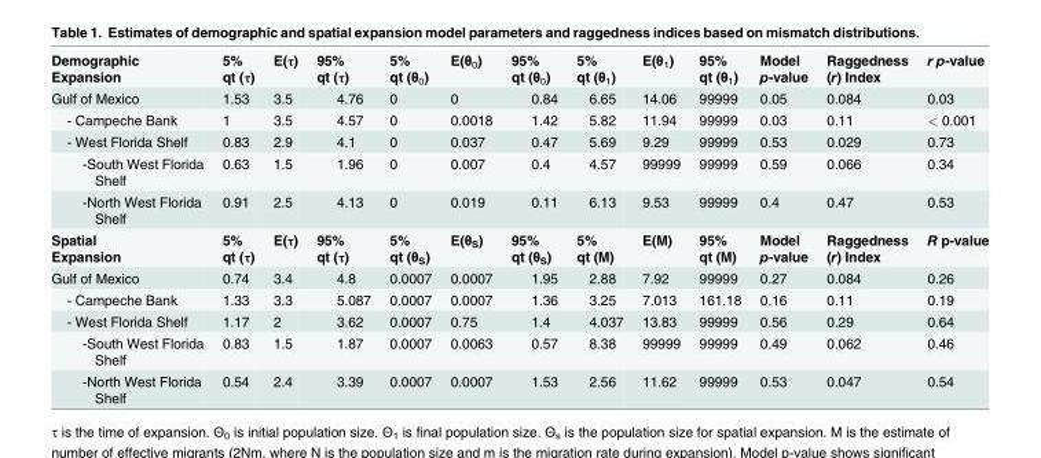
<table><tbody><tr><td>Demographic Expansion</td><td>5% qt (τ)</td><td>E(τ)</td><td>95% qt (τ)</td><td>5% qt (θ<sub>0</sub>)</td><td>E(θ<sub>0</sub>)</td><td>95% qt (θ<sub>0</sub>)</td><td>5% qt (θ<sub>1</sub>)</td><td>E(θ<sub>1</sub>)</td><td>95% qt (θ<sub>1</sub>)</td><td>Model p-value</td><td>Raggedness (r) Index</td><td>r p-value</td></tr><tr><td>Gulf of Mexico</td><td>1.53</td><td>3.5</td><td>4.76</td><td>0</td><td>0</td><td>0.84</td><td>6.65</td><td>14.06</td><td>99999</td><td>0.05</td><td>0.084</td><td>0.03</td></tr><tr><td>- Campeche Bank</td><td>1</td><td>3.5</td><td>4.57</td><td>0</td><td>0.0018</td><td>1.42</td><td>5.82</td><td>11.94</td><td>99999</td><td>0.03</td><td>0.11</td><td>&lt; 0.001</td></tr><tr><td>- West Florida Shelf</td><td>0.83</td><td>2.9</td><td>4.1</td><td>0</td><td>0.037</td><td>0.47</td><td>5.69</td><td>9.29</td><td>99999</td><td>0.53</td><td>0.029</td><td>0.73</td></tr><tr><td>-South West Florida Shelf</td><td>0.63</td><td>1.5</td><td>1.96</td><td>0</td><td>0.007</td><td>0.4</td><td>4.57</td><td>99999</td><td>99999</td><td>0.59</td><td>0.066</td><td>0.34</td></tr><tr><td>-North West Florida Shelf</td><td>0.91</td><td>2.5</td><td>4.13</td><td>0</td><td>0.019</td><td>0.11</td><td>6.13</td><td>9.53</td><td>99999</td><td>0.4</td><td>0.47</td><td>0.53</td></tr><tr><td>Spatial Expansion</td><td>5% qt (τ)</td><td>E(τ)</td><td>95% qt (τ)</td><td>5% qt (θ<sub>S</sub>)</td><td>E(θ<sub>S</sub>)</td><td>95% qt (θ<sub>S</sub>)</td><td>5% qt (M)</td><td>E(M)</td><td>95% qt (M)</td><td>Model p-value</td><td>Raggedness (r) Index</td><td>R p-value</td></tr><tr><td>Gulf of Mexico</td><td>0.74</td><td>3.4</td><td>4.8</td><td>0.0007</td><td>0.0007</td><td>1.95</td><td>2.88</td><td>7.92</td><td>99999</td><td>0.27</td><td>0.084</td><td>0.26</td></tr><tr><td>- Campeche Bank</td><td>1.33</td><td>3.3</td><td>5.087</td><td>0.0007</td><td>0.0007</td><td>1.36</td><td>3.25</td><td>7.013</td><td>161.18</td><td>0.16</td><td>0.11</td><td>0.19</td></tr><tr><td>- West Florida Shelf</td><td>1.17</td><td>2</td><td>3.62</td><td>0.0007</td><td>0.75</td><td>1.4</td><td>4.037</td><td>13.83</td><td>99999</td><td>0.56</td><td>0.29</td><td>0.64</td></tr><tr><td>-South West Florida Shelf</td><td>0.83</td><td>1.5</td><td>1.87</td><td>0.0007</td><td>0.0063</td><td>0.57</td><td>8.38</td><td>99999</td><td>99999</td><td>0.49</td><td>0.062</td><td>0.46</td></tr><tr><td>-North West Florida Shelf</td><td>0.54</td><td>2.4</td><td>3.39</td><td>0.0007</td><td>0.0007</td><td>1.53</td><td>2.56</td><td>11.62</td><td>99999</td><td>0.53</td><td>0.047</td><td>0.54</td></tr></tbody></table>